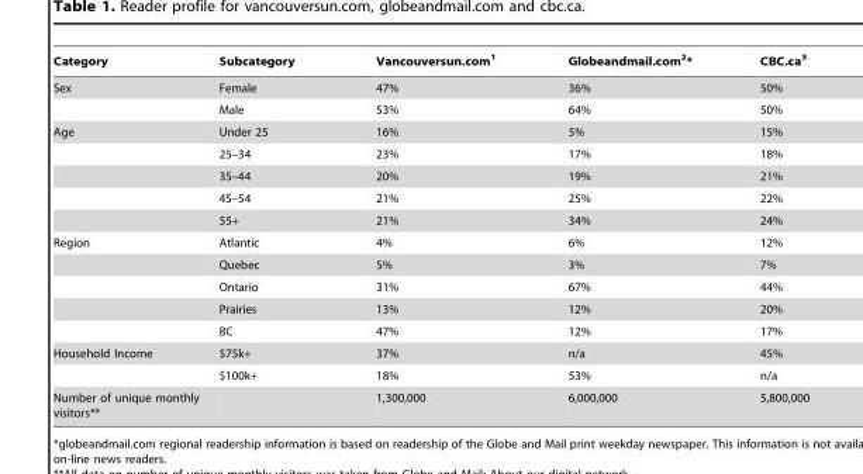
<table><thead><tr><td>Category</td><td>Subcategory</td><td>Vancouversun.com<sup>1</sup></td><td>Globeandmail.com<sup>2</sup>*</td><td>CBC.ca<sup>3</sup></td></tr></thead><tbody><tr><td rowspan="2">Sex</td><td>Female</td><td>47%</td><td>36%</td><td>50%</td></tr><tr><td>Male</td><td>53%</td><td>64%</td><td>50%</td></tr><tr><td rowspan="5">Age</td><td>Under 25</td><td>16%</td><td>5%</td><td>15%</td></tr><tr><td>25–34</td><td>23%</td><td>17%</td><td>18%</td></tr><tr><td>35–44</td><td>20%</td><td>19%</td><td>21%</td></tr><tr><td>45–54</td><td>21%</td><td>25%</td><td>22%</td></tr><tr><td>55+</td><td>21%</td><td>34%</td><td>24%</td></tr><tr><td rowspan="5">Region</td><td>Atlantic</td><td>4%</td><td>6%</td><td>12%</td></tr><tr><td>Quebec</td><td>5%</td><td>3%</td><td>7%</td></tr><tr><td>Ontario</td><td>31%</td><td>67%</td><td>44%</td></tr><tr><td>Prairies</td><td>13%</td><td>12%</td><td>20%</td></tr><tr><td>BC</td><td>47%</td><td>12%</td><td>17%</td></tr><tr><td rowspan="2">Household Income</td><td>$75k+</td><td>37%</td><td>n/a</td><td>45%</td></tr><tr><td>$100k+</td><td>18%</td><td>53%</td><td>n/a</td></tr><tr><td>Number of unique monthly visitors**</td><td></td><td>1,300,000</td><td>6,000,000</td><td>5,800,000</td></tr></tbody></table>